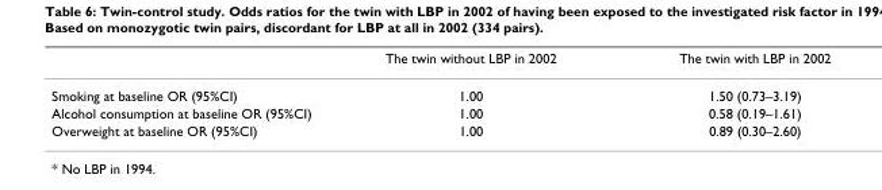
<table><thead><tr><td></td><td>The twin without LBP in 2002</td><td>The twin with LBP in 2002</td></tr></thead><tbody><tr><td>Smoking at baseline OR (95%CI)</td><td>1.00</td><td>1.50 (0.73–3.19)</td></tr><tr><td>Alcohol consumption at baseline OR (95%CI)</td><td>1.00</td><td>0.58 (0.19–1.61)</td></tr><tr><td>Overweight at baseline OR (95%CI)</td><td>1.00</td><td>0.89 (0.30–2.60)</td></tr></tbody></table>